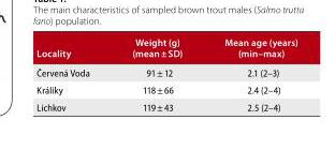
<table><thead><tr><td>locality</td><td>Weight (g) (mean ± Sd)</td><td>Mean age (years) (min–max)</td></tr></thead><tbody><tr><td>Červená Voda</td><td>91 ± 12</td><td>2.1 (2–3)</td></tr><tr><td>Králíky</td><td>118 ± 66</td><td>2.4 (2–4)</td></tr><tr><td>Lichkov</td><td>119 ± 43</td><td>2.5 (2–4)</td></tr></tbody></table>